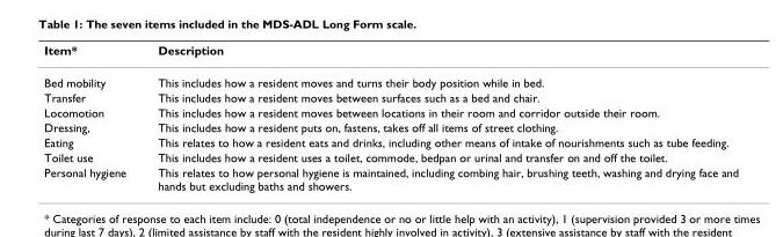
<table><thead><tr><td>Item*</td><td>Description</td></tr></thead><tbody><tr><td>Bed mobility</td><td>This includes how a resident moves and turns their body position while in bed.</td></tr><tr><td>Transfer</td><td>This includes how a resident moves between surfaces such as a bed and chair.</td></tr><tr><td>Locomotion</td><td>This includes how a resident moves between locations in their room and corridor outside their room.</td></tr><tr><td>Dressing,</td><td>This includes how a resident puts on, fastens, takes off all items of street clothing.</td></tr><tr><td>Eating</td><td>This relates to how a resident eats and drinks, including other means of intake of nourishments such as tube feeding.</td></tr><tr><td>Toilet use</td><td>This includes how a resident uses a toilet, commode, bedpan or urinal and transfer on and off the toilet.</td></tr><tr><td>Personal hygiene</td><td>This relates to how personal hygiene is maintained, including combing hair, brushing teeth, washing and drying face and hands but excluding baths and showers.</td></tr></tbody></table>